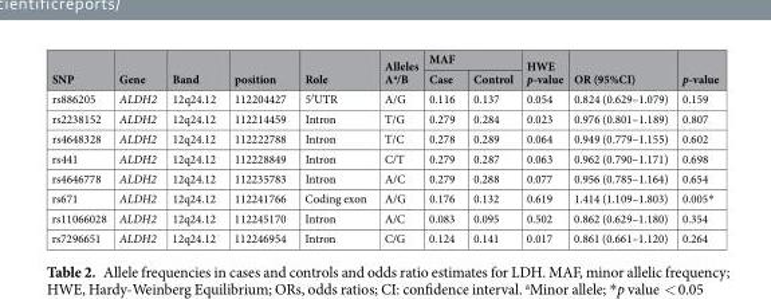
<table><thead><tr><td rowspan="2">SNP</td><td rowspan="2">Gene</td><td rowspan="2">Band</td><td rowspan="2">position</td><td rowspan="2">Role</td><td rowspan="2">Alleles A<sup>a</sup>/B</td><td colspan="2">MAF</td><td rowspan="2">HWE p-value</td><td rowspan="2">OR (95%CI)</td><td rowspan="2">p-value</td></tr><tr><td>Case</td><td>Control</td></tr></thead><tbody><tr><td>rs886205</td><td>ALDH2</td><td>12q24.12</td><td>112204427</td><td>5′UTR</td><td>A/G</td><td>0.116</td><td>0.137</td><td>0.054</td><td>0.824 (0.629–1.079)</td><td>0.159</td></tr><tr><td>rs2238152</td><td>ALDH2</td><td>12q24.12</td><td>112214459</td><td>Intron</td><td>T/G</td><td>0.279</td><td>0.284</td><td>0.023</td><td>0.976 (0.801–1.189)</td><td>0.807</td></tr><tr><td>rs4648328</td><td>ALDH2</td><td>12q24.12</td><td>112222788</td><td>Intron</td><td>T/C</td><td>0.278</td><td>0.289</td><td>0.064</td><td>0.949 (0.779–1.155)</td><td>0.602</td></tr><tr><td>rs441</td><td>ALDH2</td><td>12q24.12</td><td>112228849</td><td>Intron</td><td>C/T</td><td>0.279</td><td>0.287</td><td>0.063</td><td>0.962 (0.790–1.171)</td><td>0.698</td></tr><tr><td>rs4646778</td><td>ALDH2</td><td>12q24.12</td><td>112235783</td><td>Intron</td><td>A/C</td><td>0.279</td><td>0.288</td><td>0.077</td><td>0.956 (0.785–1.164)</td><td>0.654</td></tr><tr><td>rs671</td><td>ALDH2</td><td>12q24.12</td><td>112241766</td><td>Coding exon</td><td>A/G</td><td>0.176</td><td>0.132</td><td>0.619</td><td>1.414 (1.109–1.803)</td><td>0.005*</td></tr><tr><td>rs11066028</td><td>ALDH2</td><td>12q24.12</td><td>112245170</td><td>Intron</td><td>A/C</td><td>0.083</td><td>0.095</td><td>0.502</td><td>0.862 (0.629–1.180)</td><td>0.354</td></tr><tr><td>rs7296651</td><td>ALDH2</td><td>12q24.12</td><td>112246954</td><td>Intron</td><td>C/G</td><td>0.124</td><td>0.141</td><td>0.017</td><td>0.861 (0.661–1.120)</td><td>0.264</td></tr></tbody></table>